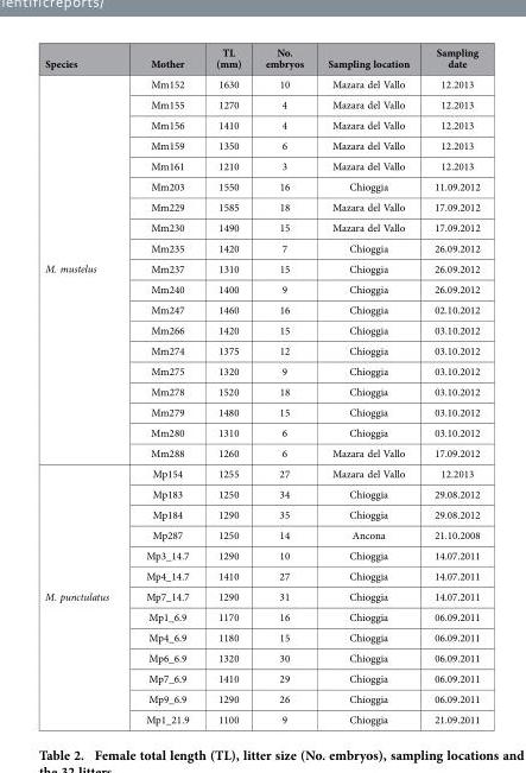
<table><thead><tr><td>Species</td><td>Mother</td><td>TL (mm)</td><td>No. embryos</td><td>Sampling location</td><td>Sampling date</td></tr></thead><tbody><tr><td rowspan="19">M. mustelus</td><td>Mm152</td><td>1630</td><td>10</td><td>Mazara del Vallo</td><td>12.2013</td></tr><tr><td>Mm155</td><td>1270</td><td>4</td><td>Mazara del Vallo</td><td>12.2013</td></tr><tr><td>Mm156</td><td>1410</td><td>4</td><td>Mazara del Vallo</td><td>12.2013</td></tr><tr><td>Mm159</td><td>1350</td><td>6</td><td>Mazara del Vallo</td><td>12.2013</td></tr><tr><td>Mm161</td><td>1210</td><td>3</td><td>Mazara del Vallo</td><td>12.2013</td></tr><tr><td>Mm203</td><td>1550</td><td>16</td><td>Chioggia</td><td>11.09.2012</td></tr><tr><td>Mm229</td><td>1585</td><td>18</td><td>Mazara del Vallo</td><td>17.09.2012</td></tr><tr><td>Mm230</td><td>1490</td><td>15</td><td>Mazara del Vallo</td><td>17.09.2012</td></tr><tr><td>Mm235</td><td>1420</td><td>7</td><td>Chioggia</td><td>26.09.2012</td></tr><tr><td>Mm237</td><td>1310</td><td>15</td><td>Chioggia</td><td>26.09.2012</td></tr><tr><td>Mm240</td><td>1400</td><td>9</td><td>Chioggia</td><td>26.09.2012</td></tr><tr><td>Mm247</td><td>1460</td><td>16</td><td>Chioggia</td><td>02.10.2012</td></tr><tr><td>Mm266</td><td>1420</td><td>15</td><td>Chioggia</td><td>03.10.2012</td></tr><tr><td>Mm274</td><td>1375</td><td>12</td><td>Chioggia</td><td>03.10.2012</td></tr><tr><td>Mm275</td><td>1320</td><td>9</td><td>Chioggia</td><td>03.10.2012</td></tr><tr><td>Mm278</td><td>1520</td><td>18</td><td>Chioggia</td><td>03.10.2012</td></tr><tr><td>Mm279</td><td>1480</td><td>15</td><td>Chioggia</td><td>03.10.2012</td></tr><tr><td>Mm280</td><td>1310</td><td>6</td><td>Chioggia</td><td>03.10.2012</td></tr><tr><td>Mm288</td><td>1260</td><td>6</td><td>Mazara del Vallo</td><td>17.09.2012</td></tr><tr><td rowspan="13">M. punctulatus</td><td>Mp154</td><td>1255</td><td>27</td><td>Mazara del Vallo</td><td>12.2013</td></tr><tr><td>Mp183</td><td>1250</td><td>34</td><td>Chioggia</td><td>29.08.2012</td></tr><tr><td>Mp184</td><td>1290</td><td>35</td><td>Chioggia</td><td>29.08.2012</td></tr><tr><td>Mp287</td><td>1250</td><td>14</td><td>Ancona</td><td>21.10.2008</td></tr><tr><td>Mp3_14.7</td><td>1290</td><td>10</td><td>Chioggia</td><td>14.07.2011</td></tr><tr><td>Mp4_14.7</td><td>1410</td><td>27</td><td>Chioggia</td><td>14.07.2011</td></tr><tr><td>Mp7_14.7</td><td>1290</td><td>31</td><td>Chioggia</td><td>14.07.2011</td></tr><tr><td>Mp1_6.9</td><td>1170</td><td>16</td><td>Chioggia</td><td>06.09.2011</td></tr><tr><td>Mp4_6.9</td><td>1180</td><td>15</td><td>Chioggia</td><td>06.09.2011</td></tr><tr><td>Mp6_6.9</td><td>1320</td><td>30</td><td>Chioggia</td><td>06.09.2011</td></tr><tr><td>Mp7_6.9</td><td>1410</td><td>29</td><td>Chioggia</td><td>06.09.2011</td></tr><tr><td>Mp9_6.9</td><td>1290</td><td>26</td><td>Chioggia</td><td>06.09.2011</td></tr><tr><td>Mp1_21.9</td><td>1100</td><td>9</td><td>Chioggia</td><td>21.09.2011</td></tr></tbody></table>